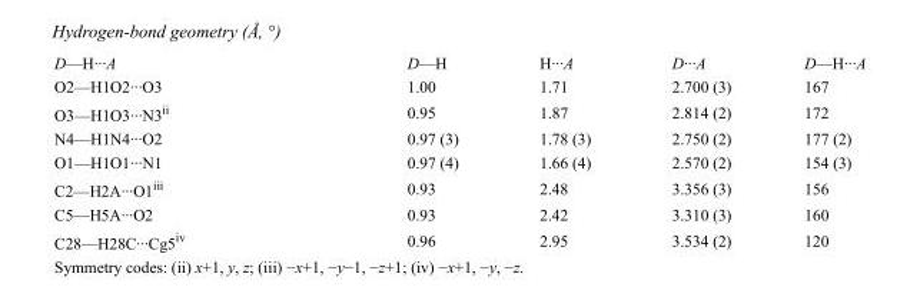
<table><tbody><tr><td>D—H···A</td><td>D—H</td><td>H···A</td><td>D···A</td><td>D—H···A</td></tr><tr><td>O2—H1O2···O3</td><td>1.00</td><td>1.71</td><td>2.700 (3)</td><td>167</td></tr><tr><td>O3—H1O3···N3<sup>ii</sup></td><td>0.95</td><td>1.87</td><td>2.814 (2)</td><td>172</td></tr><tr><td>N4—H1N4···O2</td><td>0.97 (3)</td><td>1.78 (3)</td><td>2.750 (2)</td><td>177 (2)</td></tr><tr><td>O1—H1O1···N1</td><td>0.97 (4)</td><td>1.66 (4)</td><td>2.570 (2)</td><td>154 (3)</td></tr><tr><td>C2—H2A···O1<sup>iii</sup></td><td>0.93</td><td>2.48</td><td>3.356 (3)</td><td>156</td></tr><tr><td>C5—H5A···O2</td><td>0.93</td><td>2.42</td><td>3.310 (3)</td><td>160</td></tr><tr><td>C28—H28C···Cg5<sup>iv</sup></td><td>0.96</td><td>2.95</td><td>3.534 (2)</td><td>120</td></tr></tbody></table>